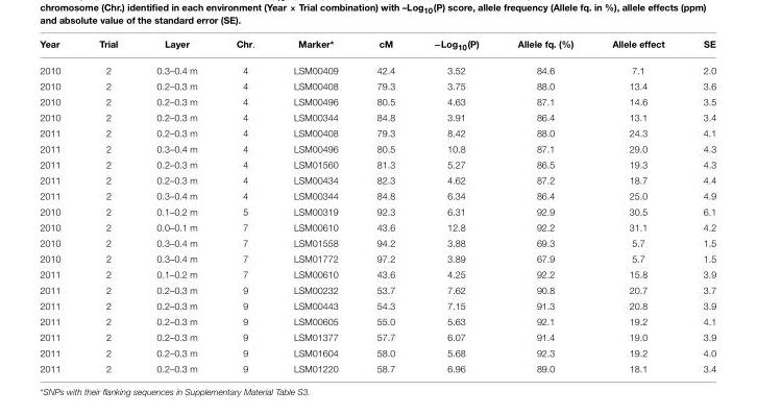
<table><thead><tr><td>Year</td><td>Trial</td><td>Layer</td><td>Chr.</td><td>Marker*</td><td>cM</td><td>−Log<sub>10</sub>(P)</td><td>Allele fq. (%)</td><td>Allele effect</td><td>SE</td></tr></thead><tbody><tr><td>2010</td><td>2</td><td>0.3–0.4 m</td><td>4</td><td>LSM00409</td><td>42.4</td><td>3.52</td><td>84.6</td><td>7.1</td><td>2.0</td></tr><tr><td>2010</td><td>2</td><td>0.2–0.3 m</td><td>4</td><td>LSM00408</td><td>79.3</td><td>3.75</td><td>88.0</td><td>13.4</td><td>3.6</td></tr><tr><td>2010</td><td>2</td><td>0.2–0.3 m</td><td>4</td><td>LSM00496</td><td>80.5</td><td>4.63</td><td>87.1</td><td>14.6</td><td>3.5</td></tr><tr><td>2010</td><td>2</td><td>0.2–0.3 m</td><td>4</td><td>LSM00344</td><td>84.8</td><td>3.91</td><td>86.4</td><td>13.1</td><td>3.4</td></tr><tr><td>2011</td><td>2</td><td>0.2–0.3 m</td><td>4</td><td>LSM00408</td><td>79.3</td><td>8.42</td><td>88.0</td><td>24.3</td><td>4.1</td></tr><tr><td>2011</td><td>2</td><td>0.3–0.4 m</td><td>4</td><td>LSM00496</td><td>80.5</td><td>10.8</td><td>87.1</td><td>29.0</td><td>4.3</td></tr><tr><td>2011</td><td>2</td><td>0.2–0.3 m</td><td>4</td><td>LSM01560</td><td>81.3</td><td>5.27</td><td>86.5</td><td>19.3</td><td>4.3</td></tr><tr><td>2011</td><td>2</td><td>0.2–0.3 m</td><td>4</td><td>LSM00434</td><td>82.3</td><td>4.62</td><td>87.2</td><td>18.7</td><td>4.4</td></tr><tr><td>2011</td><td>2</td><td>0.3–0.4 m</td><td>4</td><td>LSM00344</td><td>84.8</td><td>6.34</td><td>86.4</td><td>25.0</td><td>4.9</td></tr><tr><td>2010</td><td>2</td><td>0.1–0.2 m</td><td>5</td><td>LSM00319</td><td>92.3</td><td>6.31</td><td>92.9</td><td>30.5</td><td>6.1</td></tr><tr><td>2010</td><td>2</td><td>0.0–0.1 m</td><td>7</td><td>LSM00610</td><td>43.6</td><td>12.8</td><td>92.2</td><td>31.1</td><td>4.2</td></tr><tr><td>2010</td><td>2</td><td>0.3–0.4 m</td><td>7</td><td>LSM01558</td><td>94.2</td><td>3.88</td><td>69.3</td><td>5.7</td><td>1.5</td></tr><tr><td>2010</td><td>2</td><td>0.3–0.4 m</td><td>7</td><td>LSM01772</td><td>97.2</td><td>3.89</td><td>67.9</td><td>5.7</td><td>1.5</td></tr><tr><td>2011</td><td>2</td><td>0.1–0.2 m</td><td>7</td><td>LSM00610</td><td>43.6</td><td>4.25</td><td>92.2</td><td>15.8</td><td>3.9</td></tr><tr><td>2011</td><td>2</td><td>0.2–0.3 m</td><td>9</td><td>LSM00232</td><td>53.7</td><td>7.62</td><td>90.8</td><td>20.7</td><td>3.7</td></tr><tr><td>2011</td><td>2</td><td>0.2–0.3 m</td><td>9</td><td>LSM00443</td><td>54.3</td><td>7.15</td><td>91.3</td><td>20.8</td><td>3.9</td></tr><tr><td>2011</td><td>2</td><td>0.2–0.3 m</td><td>9</td><td>LSM00605</td><td>55.0</td><td>5.63</td><td>92.1</td><td>19.2</td><td>4.1</td></tr><tr><td>2011</td><td>2</td><td>0.2–0.3 m</td><td>9</td><td>LSM01377</td><td>57.7</td><td>6.07</td><td>91.4</td><td>19.0</td><td>3.9</td></tr><tr><td>2011</td><td>2</td><td>0.2–0.3 m</td><td>9</td><td>LSM01604</td><td>58.0</td><td>5.68</td><td>92.3</td><td>19.2</td><td>4.0</td></tr><tr><td>2011</td><td>2</td><td>0.2–0.3 m</td><td>9</td><td>LSM01220</td><td>58.7</td><td>6.96</td><td>89.0</td><td>18.1</td><td>3.4</td></tr></tbody></table>